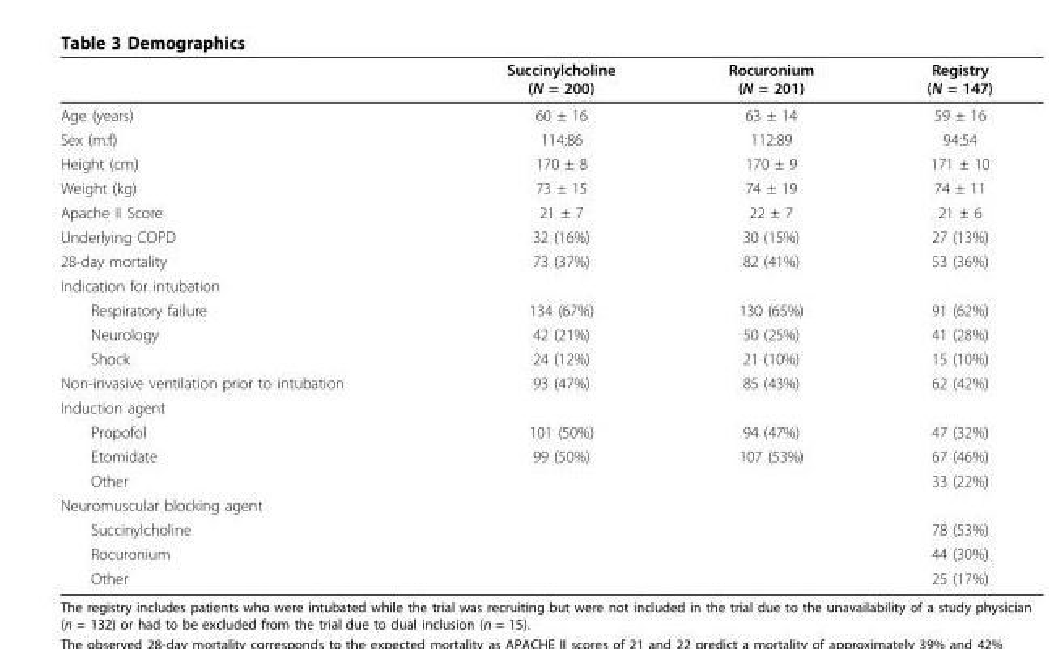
<table><thead><tr><td></td><td>Succinylcholine (N = 200)</td><td>Rocuronium (N = 201)</td><td>Registry (N = 147)</td></tr></thead><tbody><tr><td>Age (years)</td><td>60 ± 16</td><td>63 ± 14</td><td>59 ± 16</td></tr><tr><td>Sex (m:f)</td><td>114:86</td><td>112:89</td><td>94:54</td></tr><tr><td>Height (cm)</td><td>170 ± 8</td><td>170 ± 9</td><td>171 ± 10</td></tr><tr><td>Weight (kg)</td><td>73 ± 15</td><td>74 ± 19</td><td>74 ± 11</td></tr><tr><td>Apache II Score</td><td>21 ± 7</td><td>22 ± 7</td><td>21 ± 6</td></tr><tr><td>Underlying COPD</td><td>32 (16%)</td><td>30 (15%)</td><td>27 (13%)</td></tr><tr><td>28-day mortality</td><td>73 (37%)</td><td>82 (41%)</td><td>53 (36%)</td></tr><tr><td colspan="4">Indication for intubation</td></tr><tr><td>Respiratory failure</td><td>134 (67%)</td><td>130 (65%)</td><td>91 (62%)</td></tr><tr><td>Neurology</td><td>42 (21%)</td><td>50 (25%)</td><td>41 (28%)</td></tr><tr><td>Shock</td><td>24 (12%)</td><td>21 (10%)</td><td>15 (10%)</td></tr><tr><td>Non-invasive ventilation prior to intubation</td><td>93 (47%)</td><td>85 (43%)</td><td>62 (42%)</td></tr><tr><td colspan="4">Induction agent</td></tr><tr><td>Propofol</td><td>101 (50%)</td><td>94 (47%)</td><td>47 (32%)</td></tr><tr><td>Etomidate</td><td>99 (50%)</td><td>107 (53%)</td><td>67 (46%)</td></tr><tr><td>Other</td><td></td><td></td><td>33 (22%)</td></tr><tr><td colspan="4">Neuromuscular blocking agent</td></tr><tr><td>Succinylcholine</td><td></td><td></td><td>78 (53%)</td></tr><tr><td>Rocuronium</td><td></td><td></td><td>44 (30%)</td></tr><tr><td>Other</td><td></td><td></td><td>25 (17%)</td></tr></tbody></table>